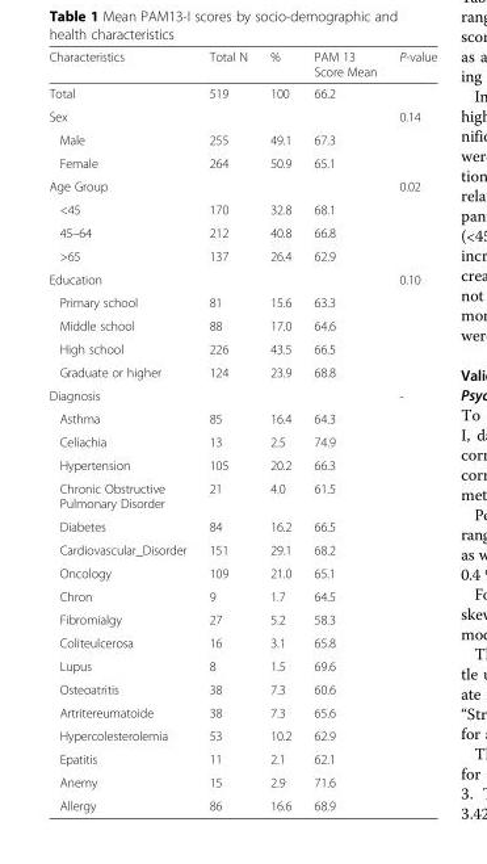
<table><thead><tr><td>Characteristics</td><td>Total N</td><td>%</td><td>PAM 13 Score Mean</td><td>P-value</td></tr></thead><tbody><tr><td>Total</td><td>519</td><td>100</td><td>66.2</td><td></td></tr><tr><td>Sex</td><td></td><td></td><td></td><td>0.14</td></tr><tr><td>Male</td><td>255</td><td>49.1</td><td>67.3</td><td></td></tr><tr><td>Female</td><td>264</td><td>50.9</td><td>65.1</td><td></td></tr><tr><td>Age Group</td><td></td><td></td><td></td><td>0.02</td></tr><tr><td>&lt;45</td><td>170</td><td>32.8</td><td>68.1</td><td></td></tr><tr><td>45–64</td><td>212</td><td>40.8</td><td>66.8</td><td></td></tr><tr><td>&gt;65</td><td>137</td><td>26.4</td><td>62.9</td><td></td></tr><tr><td>Education</td><td></td><td></td><td></td><td>0.10</td></tr><tr><td>Primary school</td><td>81</td><td>15.6</td><td>63.3</td><td></td></tr><tr><td>Middle school</td><td>88</td><td>17.0</td><td>64.6</td><td></td></tr><tr><td>High school</td><td>226</td><td>43.5</td><td>66.5</td><td></td></tr><tr><td>Graduate or higher</td><td>124</td><td>23.9</td><td>68.8</td><td></td></tr><tr><td>Diagnosis</td><td></td><td></td><td></td><td>-</td></tr><tr><td>Asthma</td><td>85</td><td>16.4</td><td>64.3</td><td></td></tr><tr><td>Celiachia</td><td>13</td><td>2.5</td><td>74.9</td><td></td></tr><tr><td>Hypertension</td><td>105</td><td>20.2</td><td>66.3</td><td></td></tr><tr><td>Chronic Obstructive Pulmonary Disorder</td><td>21</td><td>4.0</td><td>61.5</td><td></td></tr><tr><td>Diabetes</td><td>84</td><td>16.2</td><td>66.5</td><td></td></tr><tr><td>Cardiovascular_Disorder</td><td>151</td><td>29.1</td><td>68.2</td><td></td></tr><tr><td>Oncology</td><td>109</td><td>21.0</td><td>65.1</td><td></td></tr><tr><td>Chron</td><td>9</td><td>1.7</td><td>64.5</td><td></td></tr><tr><td>Fibromialgy</td><td>27</td><td>5.2</td><td>58.3</td><td></td></tr><tr><td>Coliteulcerosa</td><td>16</td><td>3.1</td><td>65.8</td><td></td></tr><tr><td>Lupus</td><td>8</td><td>1.5</td><td>69.6</td><td></td></tr><tr><td>Osteoatritis</td><td>38</td><td>7.3</td><td>60.6</td><td></td></tr><tr><td>Artritereumatoide</td><td>38</td><td>7.3</td><td>65.6</td><td></td></tr><tr><td>Hypercolesterolemia</td><td>53</td><td>10.2</td><td>62.9</td><td></td></tr><tr><td>Epatitis</td><td>11</td><td>2.1</td><td>62.1</td><td></td></tr><tr><td>Anemy</td><td>15</td><td>2.9</td><td>71.6</td><td></td></tr><tr><td>Allergy</td><td>86</td><td>16.6</td><td>68.9</td><td></td></tr></tbody></table>